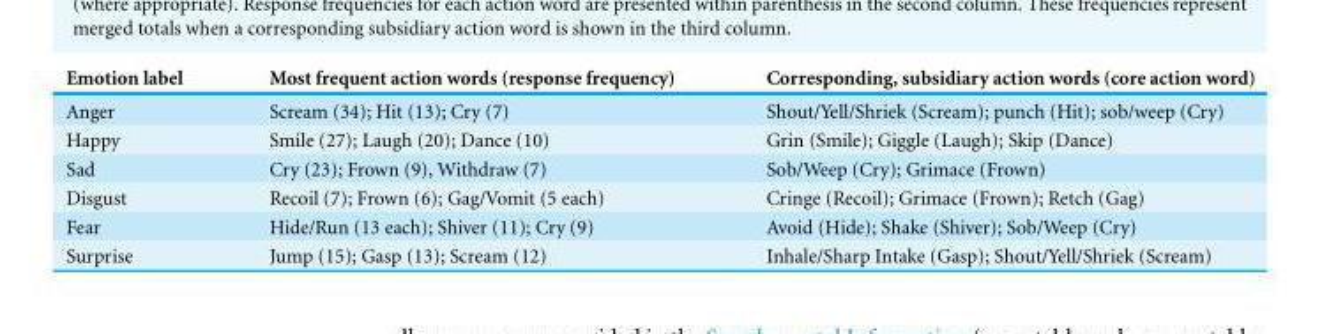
<table><thead><tr><td>Emotion label</td><td>Most frequent action words (response frequency)</td><td>Corresponding, subsidiary action words (core action word)</td></tr></thead><tbody><tr><td>Anger</td><td>Scream (34); Hit (13); Cry (7)</td><td>Shout/Yell/Shriek (Scream); punch (Hit); sob/weep (Cry)</td></tr><tr><td>Happy</td><td>Smile (27); Laugh (20); Dance (10)</td><td>Grin (Smile); Giggle (Laugh); Skip (Dance)</td></tr><tr><td>Sad</td><td>Cry (23); Frown (9), Withdraw (7)</td><td>Sob/Weep (Cry); Grimace (Frown)</td></tr><tr><td>Disgust</td><td>Recoil (7); Frown (6); Gag/Vomit (5 each)</td><td>Cringe (Recoil); Grimace (Frown); Retch (Gag)</td></tr><tr><td>Fear</td><td>Hide/Run (13 each); Shiver (11); Cry (9)</td><td>Avoid (Hide); Shake (Shiver); Sob/Weep (Cry)</td></tr><tr><td>Surprise</td><td>Jump (15); Gasp (13); Scream (12)</td><td>Inhale/Sharp Intake (Gasp); Shout/Yell/Shriek (Scream)</td></tr></tbody></table>